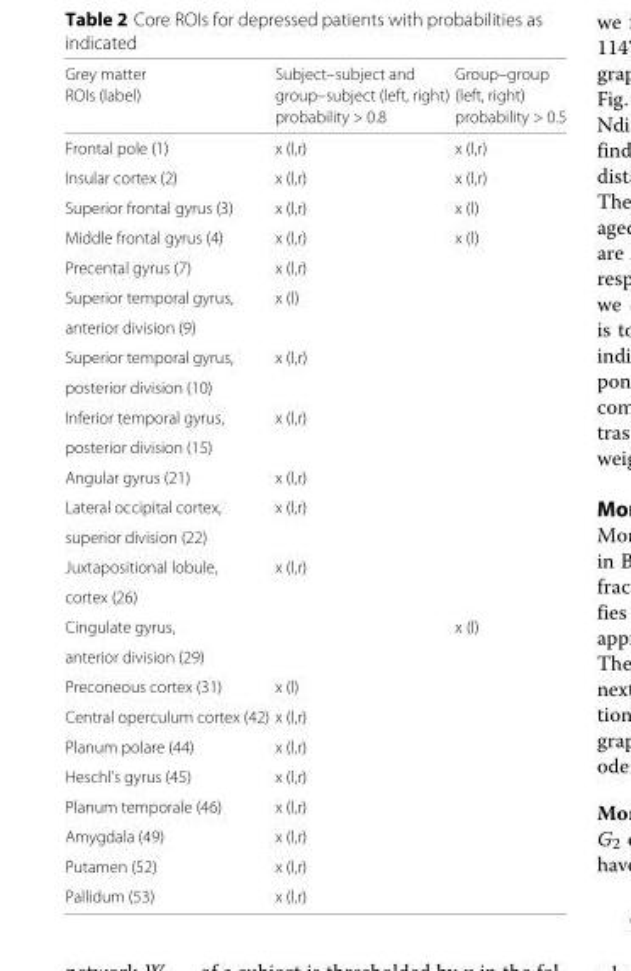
<table><thead><tr><td rowspan="3">Grey matter ROIs (label)</td><td rowspan="3">Subject–subject and group–subject (left, right) probability &gt; 0.8</td><td rowspan="3">Group–group (left, right) probability &gt; 0.5</td></tr><tr></tr><tr></tr></thead><tbody><tr><td>Frontal pole (1)</td><td>x (l,r)</td><td>x (l,r)</td></tr><tr><td>Insular cortex (2)</td><td>x (l,r)</td><td>x (l,r)</td></tr><tr><td>Superior frontal gyrus (3)</td><td>x (l,r)</td><td>x (l)</td></tr><tr><td>Middle frontal gyrus (4)</td><td>x (l,r)</td><td>x (l)</td></tr><tr><td>Precental gyrus (7)</td><td>x (l,r)</td><td></td></tr><tr><td>Superior temporal gyrus,</td><td>x (l)</td><td></td></tr><tr><td colspan="3">anterior division (9)</td></tr><tr><td>Superior temporal gyrus,</td><td>x (l,r)</td><td></td></tr><tr><td colspan="3">posterior division (10)</td></tr><tr><td>Inferior temporal gyrus,</td><td>x (l,r)</td><td></td></tr><tr><td colspan="3">posterior division (15)</td></tr><tr><td>Angular gyrus (21)</td><td>x (l,r)</td><td></td></tr><tr><td>Lateral occipital cortex,</td><td>x (l,r)</td><td></td></tr><tr><td colspan="3">superior division (22)</td></tr><tr><td>Juxtapositional lobule,</td><td>x (l,r)</td><td></td></tr><tr><td colspan="3">cortex (26)</td></tr><tr><td>Cingulate gyrus,</td><td></td><td>x (l)</td></tr><tr><td colspan="3">anterior division (29)</td></tr><tr><td>Preconeous cortex (31)</td><td>x (l)</td><td></td></tr><tr><td>Central operculum cortex (42)</td><td>x (l,r)</td><td></td></tr><tr><td>Planum polare (44)</td><td>x (l,r)</td><td></td></tr><tr><td>Heschl’s gyrus (45)</td><td>x (l,r)</td><td></td></tr><tr><td>Planum temporale (46)</td><td>x (l,r)</td><td></td></tr><tr><td>Amygdala (49)</td><td>x (l,r)</td><td></td></tr><tr><td>Putamen (52)</td><td>x (l,r)</td><td></td></tr><tr><td>Pallidum (53)</td><td>x (l,r)</td><td></td></tr></tbody></table>